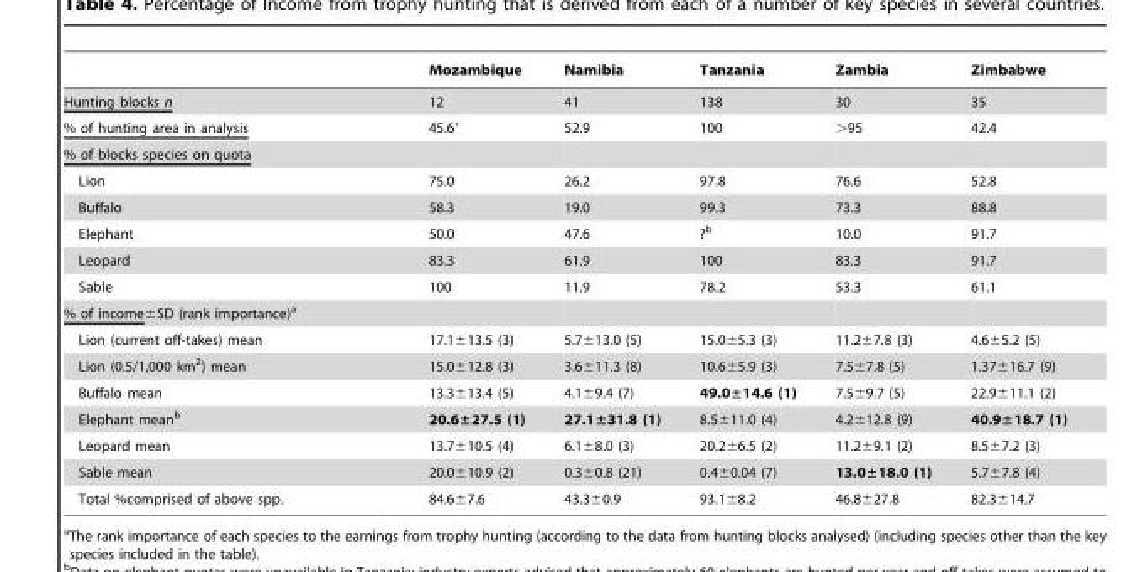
<table><thead><tr><td></td><td>Mozambique</td><td>Namibia</td><td>Tanzania</td><td>Zambia</td><td>Zimbabwe</td></tr></thead><tbody><tr><td>Hunting blocks n</td><td>12</td><td>41</td><td>138</td><td>30</td><td>35</td></tr><tr><td>% of hunting area in analysis</td><td>45.6′</td><td>52.9</td><td>100</td><td>&gt;95</td><td>42.4</td></tr><tr><td colspan="6">% of blocks species on quota</td></tr><tr><td>Lion</td><td>75.0</td><td>26.2</td><td>97.8</td><td>76.6</td><td>52.8</td></tr><tr><td>Buffalo</td><td>58.3</td><td>19.0</td><td>99.3</td><td>73.3</td><td>88.8</td></tr><tr><td>Elephant</td><td>50.0</td><td>47.6</td><td>?<sup>b</sup></td><td>10.0</td><td>91.7</td></tr><tr><td>Leopard</td><td>83.3</td><td>61.9</td><td>100</td><td>83.3</td><td>91.7</td></tr><tr><td>Sable</td><td>100</td><td>11.9</td><td>78.2</td><td>53.3</td><td>61.1</td></tr><tr><td colspan="6">% of income±SD (rank importance)<sup>a</sup></td></tr><tr><td>Lion (current off-takes) mean</td><td>17.1±13.5 (3)</td><td>5.7±13.0 (5)</td><td>15.0±5.3 (3)</td><td>11.2±7.8 (3)</td><td>4.6±5.2 (5)</td></tr><tr><td>Lion (0.5/1,000 km<sup>2</sup>) mean</td><td>15.0±12.8 (3)</td><td>3.6±11.3 (8)</td><td>10.6±5.9 (3)</td><td>7.5±7.8 (5)</td><td>1.37±16.7 (9)</td></tr><tr><td>Buffalo mean</td><td>13.3±13.4 (5)</td><td>4.1±9.4 (7)</td><td>49.0±14.6 (1)</td><td>7.5±9.7 (5)</td><td>22.9±11.1 (2)</td></tr><tr><td>Elephant mean<sup>b</sup></td><td>20.6±27.5 (1)</td><td>27.1±31.8 (1)</td><td>8.5±11.0 (4)</td><td>4.2±12.8 (9)</td><td>40.9±18.7 (1)</td></tr><tr><td>Leopard mean</td><td>13.7±10.5 (4)</td><td>6.1±8.0 (3)</td><td>20.2±6.5 (2)</td><td>11.2±9.1 (2)</td><td>8.5±7.2 (3)</td></tr><tr><td>Sable mean</td><td>20.0±10.9 (2)</td><td>0.3±0.8 (21)</td><td>0.4±0.04 (7)</td><td>13.0±18.0 (1)</td><td>5.7±7.8 (4)</td></tr><tr><td>Total %comprised of above spp.</td><td>84.6±7.6</td><td>43.3±0.9</td><td>93.1±8.2</td><td>46.8±27.8</td><td>82.3±14.7</td></tr></tbody></table>